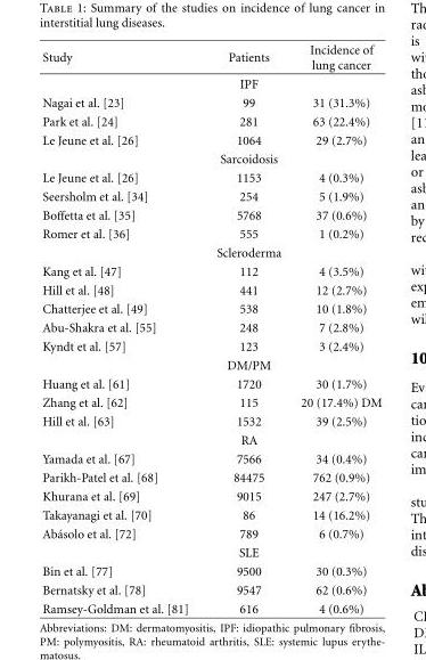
<table><thead><tr><td>Study</td><td>Patients</td><td>Incidence of lung cancer</td></tr></thead><tbody><tr><td></td><td>IPF</td><td></td></tr><tr><td>Nagai et al. [23]</td><td>99</td><td>31 (31.3%)</td></tr><tr><td>Park et al. [24]</td><td>281</td><td>63 (22.4%)</td></tr><tr><td rowspan="2">Le Jeune et al. [26]</td><td>1064</td><td>29 (2.7%)</td></tr><tr><td>Sarcoidosis</td><td></td></tr><tr><td>Le Jeune et al. [26]</td><td>1153</td><td>4 (0.3%)</td></tr><tr><td>Seersholm et al. [34]</td><td>254</td><td>5 (1.9%)</td></tr><tr><td>Boffetta et al. [35]</td><td>5768</td><td>37 (0.6%)</td></tr><tr><td rowspan="2">Romer et al. [36]</td><td>555</td><td>1 (0.2%)</td></tr><tr><td>Scleroderma</td><td></td></tr><tr><td>Kang et al. [47]</td><td>112</td><td>4 (3.5%)</td></tr><tr><td>Hill et al. [48]</td><td>441</td><td>12 (2.7%)</td></tr><tr><td>Chatterjee et al. [49]</td><td>538</td><td>10 (1.8%)</td></tr><tr><td>Abu-Shakra et al. [55]</td><td>248</td><td>7 (2.8%)</td></tr><tr><td rowspan="2">Kyndt et al. [57]</td><td>123</td><td>3 (2.4%)</td></tr><tr><td>DM/PM</td><td></td></tr><tr><td>Huang et al. [61]</td><td>1720</td><td>30 (1.7%)</td></tr><tr><td>Zhang et al. [62]</td><td>115</td><td>20 (17.4%) DM</td></tr><tr><td rowspan="2">Hill et al. [63]</td><td>1532</td><td>39 (2.5%)</td></tr><tr><td>RA</td><td></td></tr><tr><td>Yamada et al. [67]</td><td>7566</td><td>34 (0.4%)</td></tr><tr><td>Parikh-Patel et al. [68]</td><td>84475</td><td>762 (0.9%)</td></tr><tr><td>Khurana et al. [69]</td><td>9015</td><td>247 (2.7%)</td></tr><tr><td>Takayanagi et al. [70]</td><td>86</td><td>14 (16.2%)</td></tr><tr><td rowspan="2">Ab´asolo et al. [72]</td><td>789</td><td>6 (0.7%)</td></tr><tr><td>SLE</td><td></td></tr><tr><td>Bin et al. [77]</td><td>9500</td><td>30 (0.3%)</td></tr><tr><td>Bernatsky et al. [78]</td><td>9547</td><td>62 (0.6%)</td></tr><tr><td>Ramsey-Goldman et al. [81]</td><td>616</td><td>4 (0.6%)</td></tr></tbody></table>